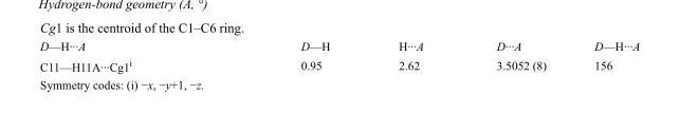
<table><tbody><tr><td>D—H···A</td><td>D—H</td><td>H···A</td><td>D···A</td><td>D—H···A</td></tr><tr><td>C11—H11A···Cg1<sup>i</sup></td><td>0.95</td><td>2.62</td><td>3.5052 (8)</td><td>156</td></tr></tbody></table>